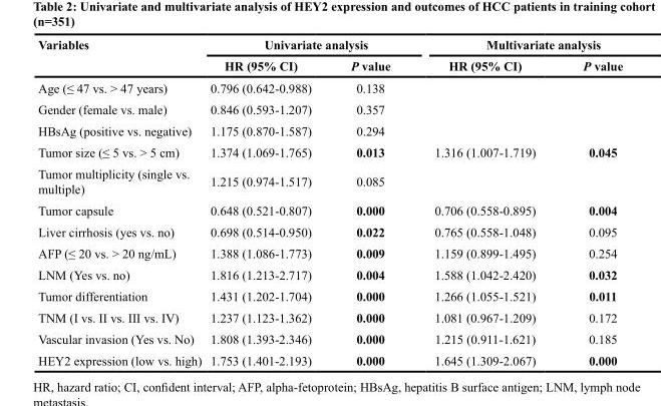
<table><thead><tr><td rowspan="2">Variables</td><td colspan="2">Univariate analysis</td><td colspan="2">Multivariate analysis</td></tr><tr><td>HR (95% CI)</td><td>P value</td><td>HR (95% CI)</td><td>P value</td></tr></thead><tbody><tr><td>Age (≤ 47 vs. &gt; 47 years)</td><td>0.796 (0.642-0.988)</td><td>0.138</td><td></td><td></td></tr><tr><td>Gender (female vs. male)</td><td>0.846 (0.593-1.207)</td><td>0.357</td><td></td><td></td></tr><tr><td>HBsAg (positive vs. negative)</td><td>1.175 (0.870-1.587)</td><td>0.294</td><td></td><td></td></tr><tr><td>Tumor size (≤ 5 vs. &gt; 5 cm)</td><td>1.374 (1.069-1.765)</td><td>0.013</td><td>1.316 (1.007-1.719)</td><td>0.045</td></tr><tr><td>Tumor multiplicity (single vs. multiple)</td><td>1.215 (0.974-1.517)</td><td>0.085</td><td></td><td></td></tr><tr><td>Tumor capsule</td><td>0.648 (0.521-0.807)</td><td>0.000</td><td>0.706 (0.558-0.895)</td><td>0.004</td></tr><tr><td>Liver cirrhosis (yes vs. no)</td><td>0.698 (0.514-0.950)</td><td>0.022</td><td>0.765 (0.558-1.048)</td><td>0.095</td></tr><tr><td>AFP (≤ 20 vs. &gt; 20 ng/mL)</td><td>1.388 (1.086-1.773)</td><td>0.009</td><td>1.159 (0.899-1.495)</td><td>0.254</td></tr><tr><td>LNM (Yes vs. no)</td><td>1.816 (1.213-2.717)</td><td>0.004</td><td>1.588 (1.042-2.420)</td><td>0.032</td></tr><tr><td>Tumor differentiation</td><td>1.431 (1.202-1.704)</td><td>0.000</td><td>1.266 (1.055-1.521)</td><td>0.011</td></tr><tr><td>TNM (I vs. II vs. III vs. IV)</td><td>1.237 (1.123-1.362)</td><td>0.000</td><td>1.081 (0.967-1.209)</td><td>0.172</td></tr><tr><td>Vascular invasion (Yes vs. No)</td><td>1.808 (1.393-2.346)</td><td>0.000</td><td>1.215 (0.911-1.621)</td><td>0.185</td></tr><tr><td>HEY2 expression (low vs. high)</td><td>1.753 (1.401-2.193)</td><td>0.000</td><td>1.645 (1.309-2.067)</td><td>0.000</td></tr></tbody></table>